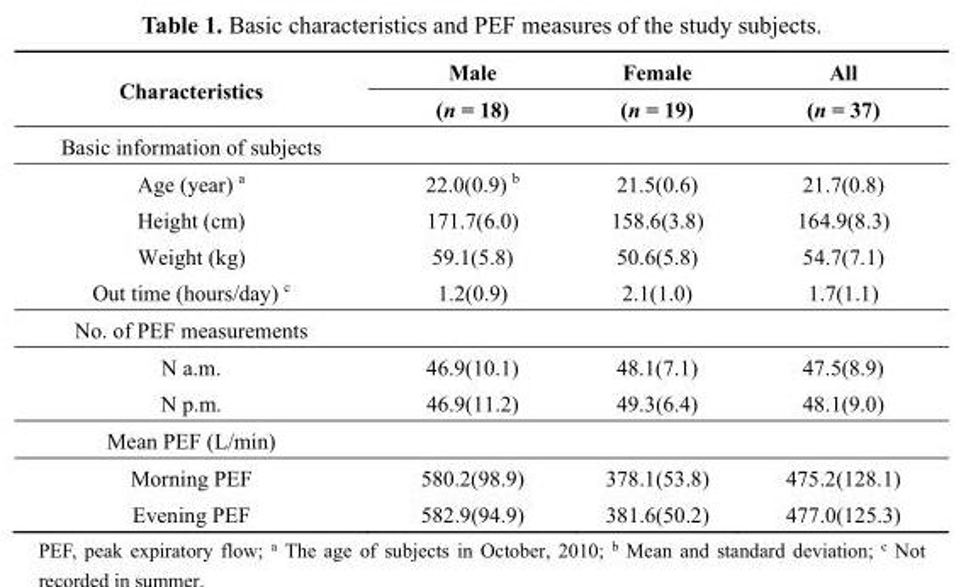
<table><thead><tr><td rowspan="2">Characteristics</td><td rowspan="2">Male (n = 18)</td><td rowspan="2">Female (n = 19)</td><td rowspan="2">All (n = 37)</td></tr><tr></tr></thead><tbody><tr><td colspan="4">Basic information of subjects</td></tr><tr><td>Age (year) <sup>a</sup></td><td>22.0(0.9) <sup>b</sup></td><td>21.5(0.6)</td><td>21.7(0.8)</td></tr><tr><td>Height (cm)</td><td>171.7(6.0)</td><td>158.6(3.8)</td><td>164.9(8.3)</td></tr><tr><td>Weight (kg)</td><td>59.1(5.8)</td><td>50.6(5.8)</td><td>54.7(7.1)</td></tr><tr><td>Out time (hours/day) <sup>c</sup></td><td>1.2(0.9)</td><td>2.1(1.0)</td><td>1.7(1.1)</td></tr><tr><td colspan="4">No. of PEF measurements</td></tr><tr><td>N a.m.</td><td>46.9(10.1)</td><td>48.1(7.1)</td><td>47.5(8.9)</td></tr><tr><td>N p.m.</td><td>46.9(11.2)</td><td>49.3(6.4)</td><td>48.1(9.0)</td></tr><tr><td colspan="4">Mean PEF (L/min)</td></tr><tr><td>Morning PEF</td><td>580.2(98.9)</td><td>378.1(53.8)</td><td>475.2(128.1)</td></tr><tr><td>Evening PEF</td><td>582.9(94.9)</td><td>381.6(50.2)</td><td>477.0(125.3)</td></tr></tbody></table>